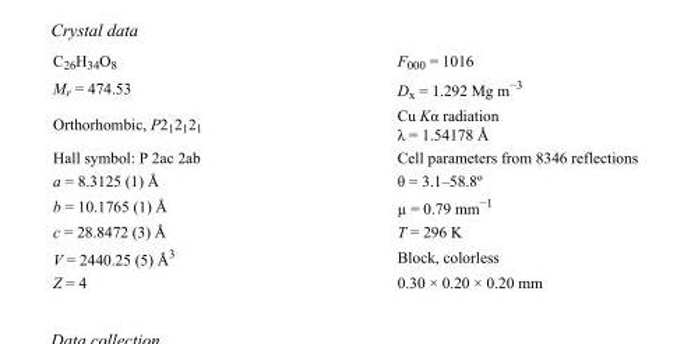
<table><tbody><tr><td>C<sub>26</sub>H<sub>34</sub>O<sub>8</sub></td><td>F000 = 1016</td></tr><tr><td>M<sub>r</sub> = 474.53</td><td>D<sub>x</sub> = 1.292 Mg m<sup>−3</sup></td></tr><tr><td>Orthorhombic, P2<sub>1</sub>2<sub>1</sub>2<sub>1</sub></td><td>Cu Kα radiation λ = 1.54178 Å</td></tr><tr><td>Hall symbol: P 2ac 2ab</td><td>Cell parameters from 8346 reflections</td></tr><tr><td>a = 8.3125 (1) Å</td><td>θ = 3.1–58.8º</td></tr><tr><td>b = 10.1765 (1) Å</td><td>µ = 0.79 mm<sup>−1</sup></td></tr><tr><td>c = 28.8472 (3) Å</td><td>T = 296 K</td></tr><tr><td>V = 2440.25 (5) Å<sup>3</sup></td><td>Block, colorless</td></tr><tr><td>Z = 4</td><td>0.30 × 0.20 × 0.20 mm</td></tr></tbody></table>